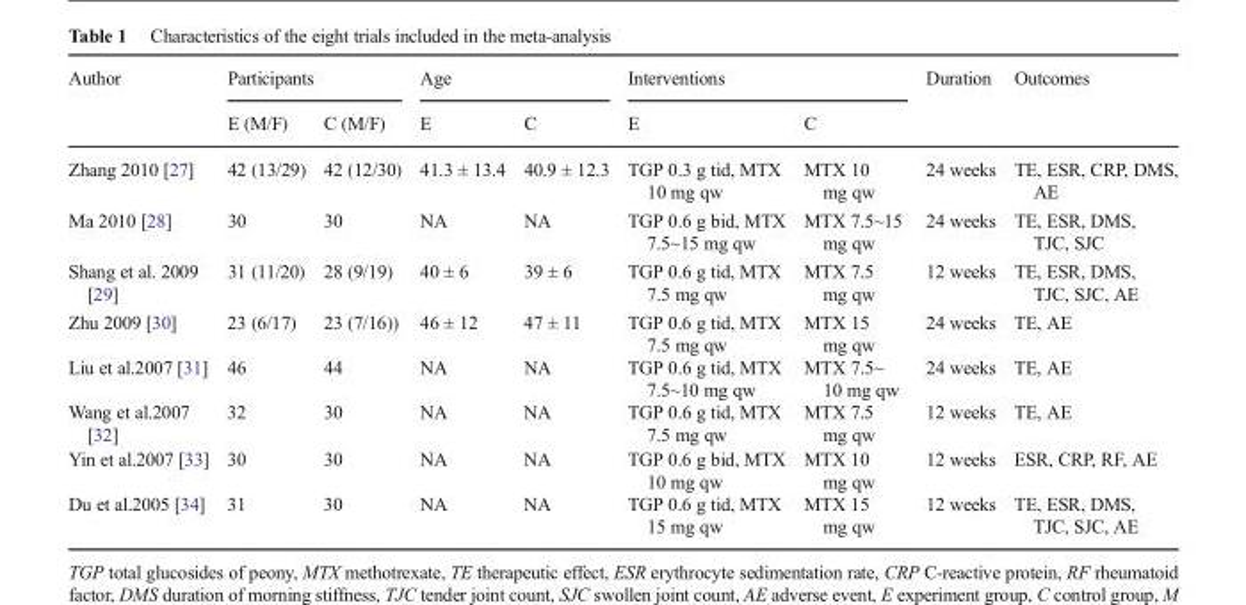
<table><thead><tr><td rowspan="2">Author</td><td colspan="2">Participants</td><td colspan="2">Age</td><td colspan="2">Interventions</td><td rowspan="2">Duration</td><td rowspan="2">Outcomes</td></tr><tr><td>E (M/F)</td><td>C (M/F)</td><td>E</td><td>C</td><td>E</td><td>C</td></tr></thead><tbody><tr><td>Zhang 2010 [27]</td><td>42 (13/29)</td><td>42 (12/30)</td><td>41.3 ± 13.4</td><td>40.9 ± 12.3</td><td>TGP 0.3 g tid, MTX 10 mg qw</td><td>MTX 10 mg qw</td><td>24 weeks</td><td>TE, ESR, CRP, DMS, AE</td></tr><tr><td>Ma 2010 [28]</td><td>30</td><td>30</td><td>NA</td><td>NA</td><td>TGP 0.6 g bid, MTX 7.5~15 mg qw</td><td>MTX 7.5~15 mg qw</td><td>24 weeks</td><td>TE, ESR, DMS, TJC, SJC</td></tr><tr><td>Shang et al. 2009 [29]</td><td>31 (11/20)</td><td>28 (9/19)</td><td>40 ± 6</td><td>39 ± 6</td><td>TGP 0.6 g tid, MTX 7.5 mg qw</td><td>MTX 7.5 mg qw</td><td>12 weeks</td><td>TE, ESR, DMS, TJC, SJC, AE</td></tr><tr><td>Zhu 2009 [30]</td><td>23 (6/17)</td><td>23 (7/16))</td><td>46 ± 12</td><td>47 ± 11</td><td>TGP 0.6 g tid, MTX 7.5 mg qw</td><td>MTX 15 mg qw</td><td>24 weeks</td><td>TE, AE</td></tr><tr><td>Liu et al.2007 [31]</td><td>46</td><td>44</td><td>NA</td><td>NA</td><td>TGP 0.6 g tid, MTX 7.5~10 mg qw</td><td>MTX 7.5~ 10 mg qw</td><td>24 weeks</td><td>TE, AE</td></tr><tr><td>Wang et al.2007 [32]</td><td>32</td><td>30</td><td>NA</td><td>NA</td><td>TGP 0.6 g tid, MTX 7.5 mg qw</td><td>MTX 7.5 mg qw</td><td>12 weeks</td><td>TE, AE</td></tr><tr><td>Yin et al.2007 [33]</td><td>30</td><td>30</td><td>NA</td><td>NA</td><td>TGP 0.6 g bid, MTX 10 mg qw</td><td>MTX 10 mg qw</td><td>12 weeks</td><td>ESR, CRP, RF, AE</td></tr><tr><td>Du et al.2005 [34]</td><td>31</td><td>30</td><td>NA</td><td>NA</td><td>TGP 0.6 g tid, MTX 15 mg qw</td><td>MTX 15 mg qw</td><td>12 weeks</td><td>TE, ESR, DMS, TJC, SJC, AE</td></tr></tbody></table>